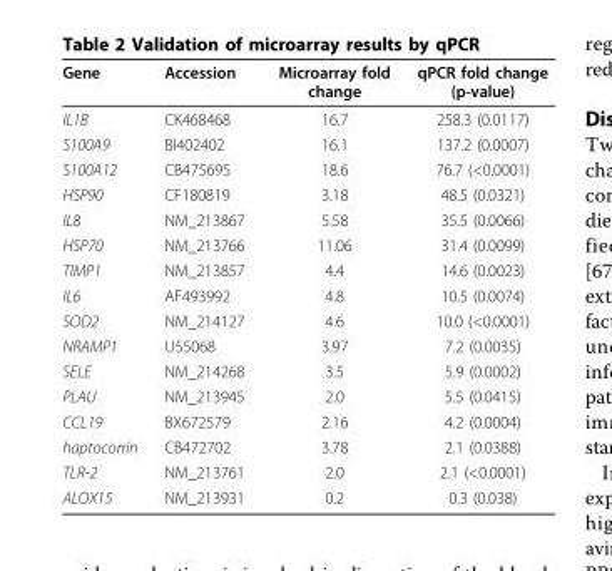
<table><thead><tr><td>Gene</td><td>Accession</td><td>Microarray fold change</td><td>qPCR fold change (p-value)</td></tr></thead><tbody><tr><td>IL1B</td><td>CK468468</td><td>16.7</td><td>258.3 (0.0117)</td></tr><tr><td>S100A9</td><td>BI402402</td><td>16.1</td><td>137.2 (0.0007)</td></tr><tr><td>S100A12</td><td>CB475695</td><td>18.6</td><td>76.7 (&lt;0.0001)</td></tr><tr><td>HSP90</td><td>CF180819</td><td>3.18</td><td>48.5 (0.0321)</td></tr><tr><td>IL8</td><td>NM_213867</td><td>5.58</td><td>35.5 (0.0066)</td></tr><tr><td>HSP70</td><td>NM_213766</td><td>11.06</td><td>31.4 (0.0099)</td></tr><tr><td>TIMP1</td><td>NM_213857</td><td>4.4</td><td>14.6 (0.0023)</td></tr><tr><td>IL6</td><td>AF493992</td><td>4.8</td><td>10.5 (0.0074)</td></tr><tr><td>SOD2</td><td>NM_214127</td><td>4.6</td><td>10.0 (&lt;0.0001)</td></tr><tr><td>NRAMP1</td><td>U55068</td><td>3.97</td><td>7.2 (0.0035)</td></tr><tr><td>SELE</td><td>NM_214268</td><td>3.5</td><td>5.9 (0.0002)</td></tr><tr><td>PLAU</td><td>NM_213945</td><td>2.0</td><td>5.5 (0.0415)</td></tr><tr><td>CCL19</td><td>BX672579</td><td>2.16</td><td>4.2 (0.0004)</td></tr><tr><td>haptocorrin</td><td>CB472702</td><td>3.78</td><td>2.1 (0.0388)</td></tr><tr><td>TLR-2</td><td>NM_213761</td><td>2.0</td><td>2.1 (&lt;0.0001)</td></tr><tr><td>ALOX15</td><td>NM_213931</td><td>0.2</td><td>0.3 (0.038)</td></tr></tbody></table>